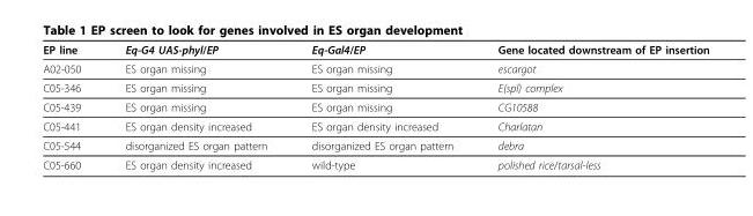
<table><thead><tr><td>EP line</td><td>Eq-G4 UAS-phyl/EP</td><td>Eq-Gal4/EP</td><td>Gene located downstream of EP insertion</td></tr></thead><tbody><tr><td>A02-050</td><td>ES organ missing</td><td>ES organ missing</td><td>escargot</td></tr><tr><td>C05-346</td><td>ES organ missing</td><td>ES organ missing</td><td>E(spl) complex</td></tr><tr><td>C05-439</td><td>ES organ missing</td><td>ES organ missing</td><td>CG10588</td></tr><tr><td>C05-441</td><td>ES organ density increased</td><td>ES organ density increased</td><td>Charlatan</td></tr><tr><td>C05-544</td><td>disorganized ES organ pattern</td><td>disorganized ES organ pattern</td><td>debra</td></tr><tr><td>C05-660</td><td>ES organ density increased</td><td>wild-type</td><td>polished rice/tarsal-less</td></tr></tbody></table>